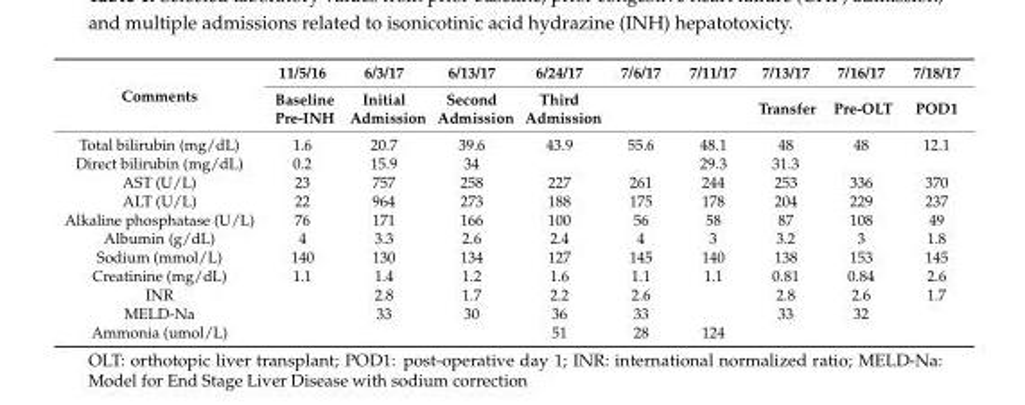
<table><thead><tr><td rowspan="2">Comments</td><td rowspan="2">11/5/16 Baseline Pre-INH</td><td rowspan="2">6/3/17 Initial Admission</td><td rowspan="2">6/13/17 Second Admission</td><td rowspan="2">6/24/17 Third Admission</td><td rowspan="2">7/6/17</td><td rowspan="2">7/11/17</td><td rowspan="2">7/13/17 Transfer</td><td rowspan="2">7/16/17 Pre-OLT</td><td rowspan="2">7/18/17 POD1</td></tr><tr></tr></thead><tbody><tr><td>Total bilirubin (mg/dL)</td><td>1.6</td><td>20.7</td><td>39.6</td><td>43.9</td><td>55.6</td><td>48.1</td><td>48</td><td>48</td><td>12.1</td></tr><tr><td>Direct bilirubin (mg/dL)</td><td>0.2</td><td>15.9</td><td>34</td><td></td><td></td><td>29.3</td><td>31.3</td><td></td><td></td></tr><tr><td>AST (U/L)</td><td>23</td><td>757</td><td>258</td><td>227</td><td>261</td><td>244</td><td>253</td><td>336</td><td>370</td></tr><tr><td>ALT (U/L)</td><td>22</td><td>964</td><td>273</td><td>188</td><td>175</td><td>178</td><td>204</td><td>229</td><td>237</td></tr><tr><td>Alkaline phosphatase (U/L)</td><td>76</td><td>171</td><td>166</td><td>100</td><td>56</td><td>58</td><td>87</td><td>108</td><td>49</td></tr><tr><td>Albumin (g/dL)</td><td>4</td><td>3.3</td><td>2.6</td><td>2.4</td><td>4</td><td>3</td><td>3.2</td><td>3</td><td>1.8</td></tr><tr><td>Sodium (mmol/L)</td><td>140</td><td>130</td><td>134</td><td>127</td><td>145</td><td>140</td><td>138</td><td>153</td><td>145</td></tr><tr><td>Creatinine (mg/dL)</td><td>1.1</td><td>1.4</td><td>1.2</td><td>1.6</td><td>1.1</td><td>1.1</td><td>0.81</td><td>0.84</td><td>2.6</td></tr><tr><td>INR</td><td></td><td>2.8</td><td>1.7</td><td>2.2</td><td>2.6</td><td></td><td>2.8</td><td>2.6</td><td>1.7</td></tr><tr><td>MELD-Na</td><td></td><td>33</td><td>30</td><td>36</td><td>33</td><td></td><td>33</td><td>32</td><td></td></tr><tr><td>Ammonia (umol/L)</td><td></td><td></td><td></td><td>51</td><td>28</td><td>124</td><td></td><td></td><td></td></tr></tbody></table>